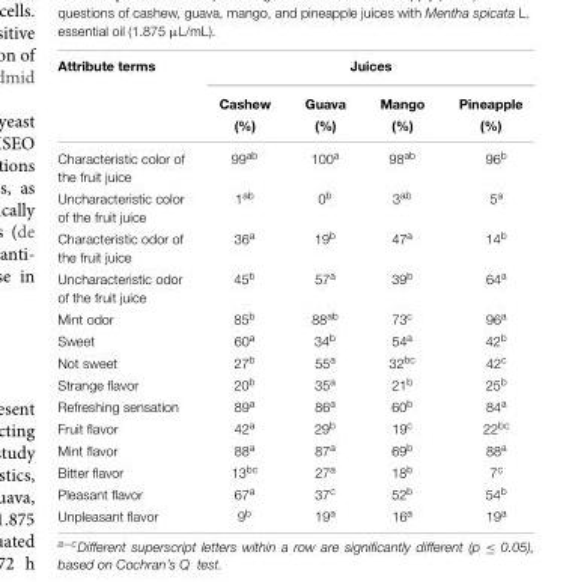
<table><thead><tr><td rowspan="3">Attribute terms</td><td colspan="4">Juices</td></tr><tr><td rowspan="2">Cashew (%)</td><td rowspan="2">Guava (%)</td><td rowspan="2">Mango (%)</td><td rowspan="2">Pineapple (%)</td></tr><tr></tr></thead><tbody><tr><td>Characteristic color of the fruit juice</td><td>99<sup>ab</sup></td><td>100<sup>a</sup></td><td>98<sup>ab</sup></td><td>96<sup>b</sup></td></tr><tr><td>Uncharacteristic color of the fruit juice</td><td>1<sup>ab</sup></td><td>0<sup>b</sup></td><td>3<sup>ab</sup></td><td>5<sup>a</sup></td></tr><tr><td>Characteristic odor of the fruit juice</td><td>36<sup>a</sup></td><td>19<sup>b</sup></td><td>47<sup>a</sup></td><td>14<sup>b</sup></td></tr><tr><td>Uncharacteristic odor of the fruit juice</td><td>45<sup>b</sup></td><td>57<sup>a</sup></td><td>39<sup>b</sup></td><td>64<sup>a</sup></td></tr><tr><td>Mint odor</td><td>85<sup>b</sup></td><td>88<sup>ab</sup></td><td>73<sup>c</sup></td><td>96<sup>a</sup></td></tr><tr><td>Sweet</td><td>60<sup>a</sup></td><td>34<sup>b</sup></td><td>54<sup>a</sup></td><td>42<sup>b</sup></td></tr><tr><td>Not sweet</td><td>27<sup>b</sup></td><td>55<sup>a</sup></td><td>32<sup>bc</sup></td><td>42<sup>c</sup></td></tr><tr><td>Strange flavor</td><td>20<sup>b</sup></td><td>35<sup>a</sup></td><td>21<sup>b</sup></td><td>25<sup>b</sup></td></tr><tr><td>Refreshing sensation</td><td>89<sup>a</sup></td><td>86<sup>a</sup></td><td>60<sup>b</sup></td><td>84<sup>a</sup></td></tr><tr><td>Fruit flavor</td><td>42<sup>a</sup></td><td>29<sup>b</sup></td><td>19<sup>c</sup></td><td>22<sup>bc</sup></td></tr><tr><td>Mint flavor</td><td>88<sup>a</sup></td><td>87<sup>a</sup></td><td>69<sup>b</sup></td><td>88<sup>a</sup></td></tr><tr><td>Bitter flavor</td><td>13<sup>bc</sup></td><td>27<sup>a</sup></td><td>18<sup>b</sup></td><td>7<sup>c</sup></td></tr><tr><td>Pleasant flavor</td><td>67<sup>a</sup></td><td>37<sup>c</sup></td><td>52<sup>b</sup></td><td>54<sup>b</sup></td></tr><tr><td>Unpleasant flavor</td><td>9<sup>b</sup></td><td>19<sup>a</sup></td><td>16<sup>a</sup></td><td>19<sup>a</sup></td></tr></tbody></table>